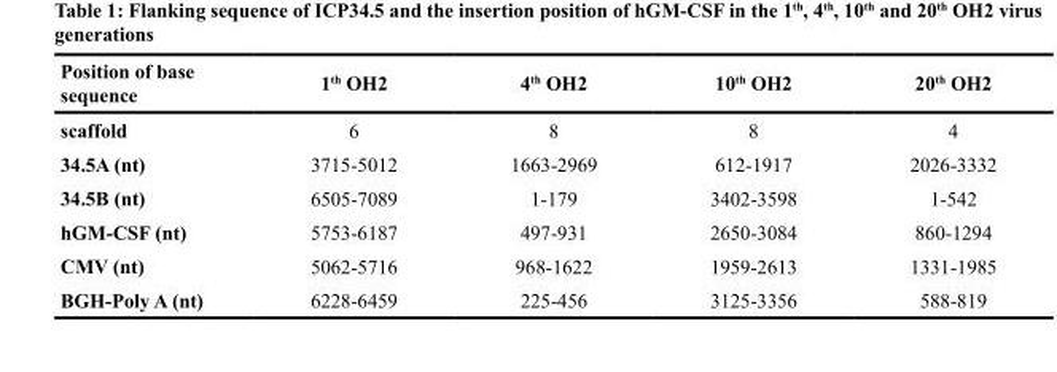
<table><thead><tr><td>Position of base sequence</td><td>1<sup>th</sup> OH2</td><td>4<sup>th</sup> OH2</td><td>10<sup>th</sup> OH2</td><td>20<sup>th</sup> OH2</td></tr></thead><tbody><tr><td>scaffold</td><td>6</td><td>8</td><td>8</td><td>4</td></tr><tr><td>34.5A (nt)</td><td>3715-5012</td><td>1663-2969</td><td>612-1917</td><td>2026-3332</td></tr><tr><td>34.5B (nt)</td><td>6505-7089</td><td>1-179</td><td>3402-3598</td><td>1-542</td></tr><tr><td>hGM-CSF (nt)</td><td>5753-6187</td><td>497-931</td><td>2650-3084</td><td>860-1294</td></tr><tr><td>CMV (nt)</td><td>5062-5716</td><td>968-1622</td><td>1959-2613</td><td>1331-1985</td></tr><tr><td>BGH-Poly A (nt)</td><td>6228-6459</td><td>225-456</td><td>3125-3356</td><td>588-819</td></tr></tbody></table>